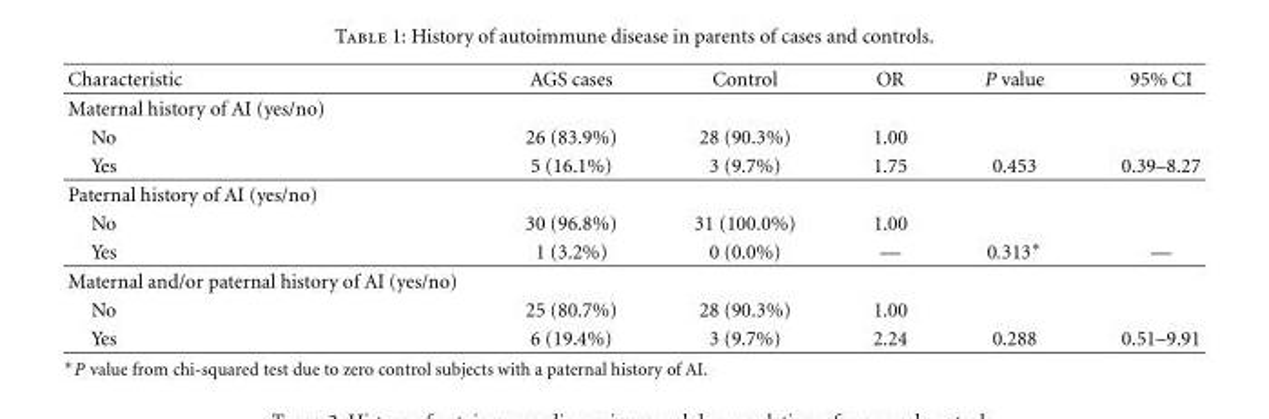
<table><thead><tr><td>Characteristic</td><td>AGS cases</td><td>Control</td><td>OR</td><td>P value</td><td>95% CI</td></tr></thead><tbody><tr><td colspan="6">Maternal history of AI (yes/no)</td></tr><tr><td>No</td><td>26 (83.9%)</td><td>28 (90.3%)</td><td>1.00</td><td></td><td></td></tr><tr><td>Yes</td><td>5 (16.1%)</td><td>3 (9.7%)</td><td>1.75</td><td>0.453</td><td>0.39–8.27</td></tr><tr><td colspan="6">Paternal history of AI (yes/no)</td></tr><tr><td>No</td><td>30 (96.8%)</td><td>31 (100.0%)</td><td>1.00</td><td></td><td></td></tr><tr><td>Yes</td><td>1 (3.2%)</td><td>0 (0.0%)</td><td>—</td><td>0.313∗</td><td>—</td></tr><tr><td colspan="6">Maternal and/or paternal history of AI (yes/no)</td></tr><tr><td>No</td><td>25 (80.7%)</td><td>28 (90.3%)</td><td>1.00</td><td></td><td></td></tr><tr><td>Yes</td><td>6 (19.4%)</td><td>3 (9.7%)</td><td>2.24</td><td>0.288</td><td>0.51–9.91</td></tr></tbody></table>